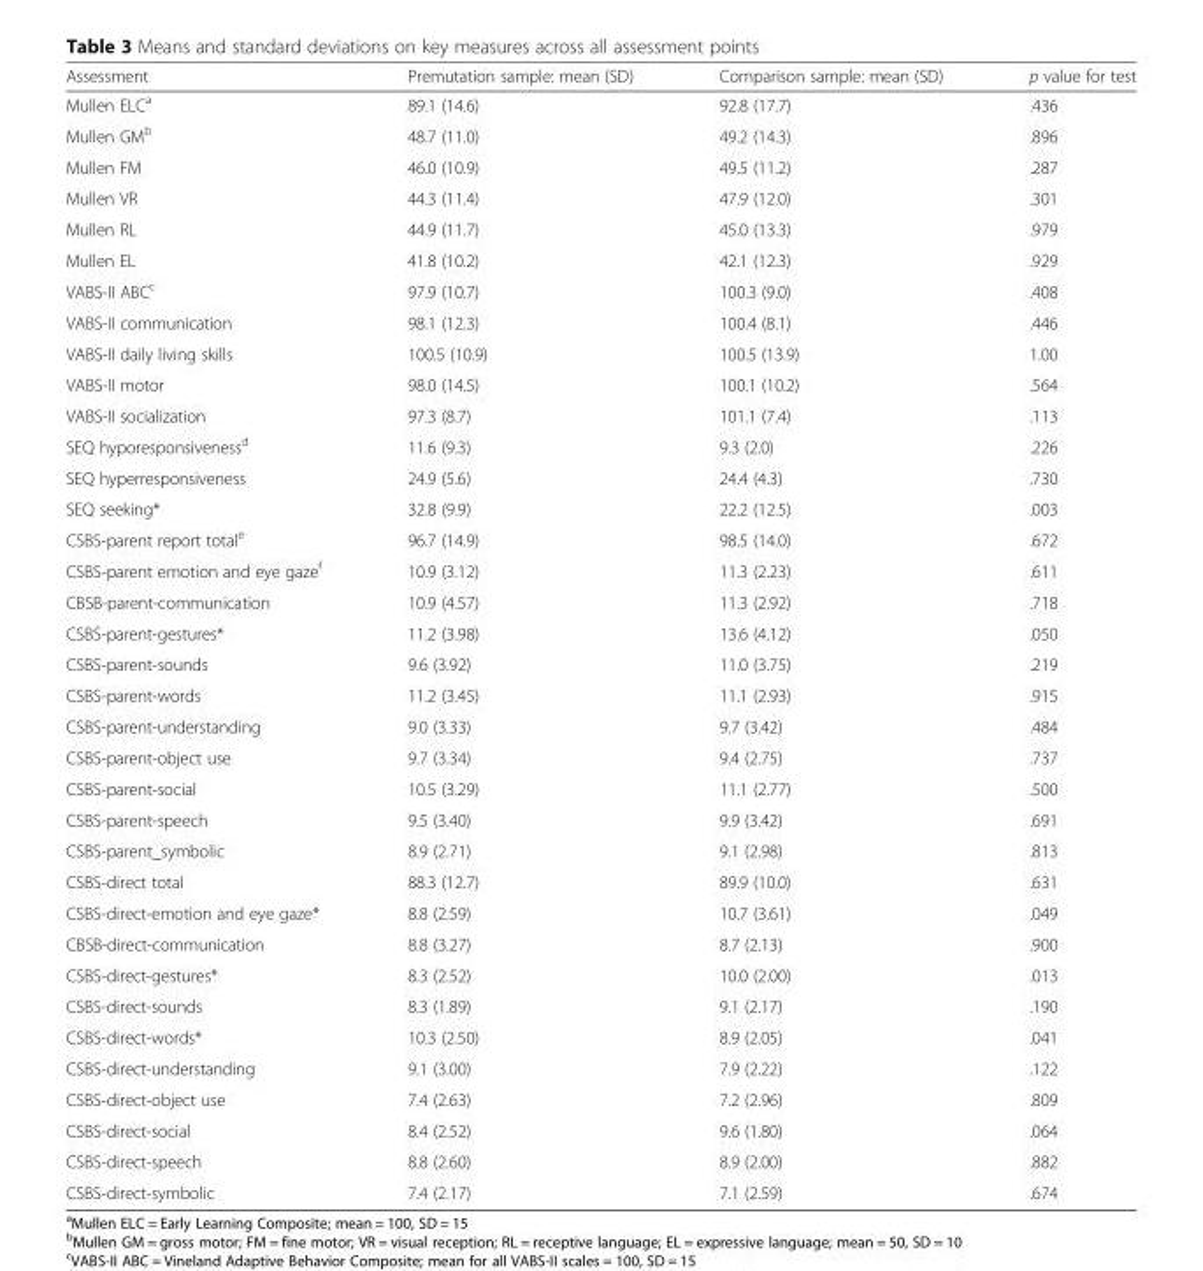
<table><thead><tr><td>Assessment</td><td>Premutation sample: mean (SD)</td><td>Comparison sample: mean (SD)</td><td>p value for test</td></tr></thead><tbody><tr><td>Mullen ELC<sup>a</sup></td><td>89.1 (14.6)</td><td>92.8 (17.7)</td><td>.436</td></tr><tr><td>Mullen GM<sup>b</sup></td><td>48.7 (11.0)</td><td>49.2 (14.3)</td><td>.896</td></tr><tr><td>Mullen FM</td><td>46.0 (10.9)</td><td>49.5 (11.2)</td><td>.287</td></tr><tr><td>Mullen VR</td><td>44.3 (11.4)</td><td>47.9 (12.0)</td><td>.301</td></tr><tr><td>Mullen RL</td><td>44.9 (11.7)</td><td>45.0 (13.3)</td><td>.979</td></tr><tr><td>Mullen EL</td><td>41.8 (10.2)</td><td>42.1 (12.3)</td><td>.929</td></tr><tr><td>VABS-II ABC<sup>c</sup></td><td>97.9 (10.7)</td><td>100.3 (9.0)</td><td>.408</td></tr><tr><td>VABS-II communication</td><td>98.1 (12.3)</td><td>100.4 (8.1)</td><td>.446</td></tr><tr><td>VABS-II daily living skills</td><td>100.5 (10.9)</td><td>100.5 (13.9)</td><td>1.00</td></tr><tr><td>VABS-II motor</td><td>98.0 (14.5)</td><td>100.1 (10.2)</td><td>.564</td></tr><tr><td>VABS-II socialization</td><td>97.3 (8.7)</td><td>101.1 (7.4)</td><td>.113</td></tr><tr><td>SEQ hyporesponsiveness<sup>d</sup></td><td>11.6 (9.3)</td><td>9.3 (2.0)</td><td>.226</td></tr><tr><td>SEQ hyperresponsiveness</td><td>24.9 (5.6)</td><td>24.4 (4.3)</td><td>.730</td></tr><tr><td>SEQ seeking*</td><td>32.8 (9.9)</td><td>22.2 (12.5)</td><td>.003</td></tr><tr><td>CSBS-parent report total<sup>e</sup></td><td>96.7 (14.9)</td><td>98.5 (14.0)</td><td>.672</td></tr><tr><td>CSBS-parent emotion and eye gaze<sup>f</sup></td><td>10.9 (3.12)</td><td>11.3 (2.23)</td><td>.611</td></tr><tr><td>CBSB-parent-communication</td><td>10.9 (4.57)</td><td>11.3 (2.92)</td><td>.718</td></tr><tr><td>CSBS-parent-gestures*</td><td>11.2 (3.98)</td><td>13.6 (4.12)</td><td>.050</td></tr><tr><td>CSBS-parent-sounds</td><td>9.6 (3.92)</td><td>11.0 (3.75)</td><td>.219</td></tr><tr><td>CSBS-parent-words</td><td>11.2 (3.45)</td><td>11.1 (2.93)</td><td>.915</td></tr><tr><td>CSBS-parent-understanding</td><td>9.0 (3.33)</td><td>9.7 (3.42)</td><td>.484</td></tr><tr><td>CSBS-parent-object use</td><td>9.7 (3.34)</td><td>9.4 (2.75)</td><td>.737</td></tr><tr><td>CSBS-parent-social</td><td>10.5 (3.29)</td><td>11.1 (2.77)</td><td>.500</td></tr><tr><td>CSBS-parent-speech</td><td>9.5 (3.40)</td><td>9.9 (3.42)</td><td>.691</td></tr><tr><td>CSBS-parent_symbolic</td><td>8.9 (2.71)</td><td>9.1 (2.98)</td><td>.813</td></tr><tr><td>CSBS-direct total</td><td>88.3 (12.7)</td><td>89.9 (10.0)</td><td>.631</td></tr><tr><td>CSBS-direct-emotion and eye gaze*</td><td>8.8 (2.59)</td><td>10.7 (3.61)</td><td>.049</td></tr><tr><td>CBSB-direct-communication</td><td>8.8 (3.27)</td><td>8.7 (2.13)</td><td>.900</td></tr><tr><td>CSBS-direct-gestures*</td><td>8.3 (2.52)</td><td>10.0 (2.00)</td><td>.013</td></tr><tr><td>CSBS-direct-sounds</td><td>8.3 (1.89)</td><td>9.1 (2.17)</td><td>.190</td></tr><tr><td>CSBS-direct-words*</td><td>10.3 (2.50)</td><td>8.9 (2.05)</td><td>.041</td></tr><tr><td>CSBS-direct-understanding</td><td>9.1 (3.00)</td><td>7.9 (2.22)</td><td>.122</td></tr><tr><td>CSBS-direct-object use</td><td>7.4 (2.63)</td><td>7.2 (2.96)</td><td>.809</td></tr><tr><td>CSBS-direct-social</td><td>8.4 (2.52)</td><td>9.6 (1.80)</td><td>.064</td></tr><tr><td>CSBS-direct-speech</td><td>8.8 (2.60)</td><td>8.9 (2.00)</td><td>.882</td></tr><tr><td>CSBS-direct-symbolic</td><td>7.4 (2.17)</td><td>7.1 (2.59)</td><td>.674</td></tr></tbody></table>